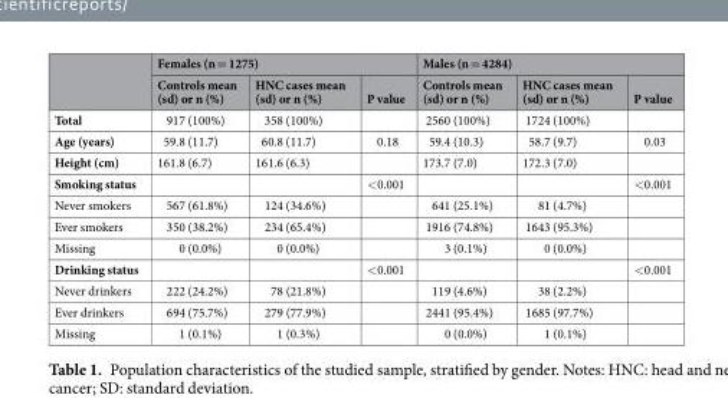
<table><thead><tr><td rowspan="2"></td><td colspan="3">Females (n = 1275)</td><td colspan="3">Males (n = 4284)</td></tr><tr><td>Controls mean (sd) or n (%)</td><td>HNC cases mean (sd) or n (%)</td><td>P value</td><td>Controls mean (sd) or n (%)</td><td>HNC cases mean (sd) or n (%)</td><td>P value</td></tr></thead><tbody><tr><td>Total</td><td>917 (100%)</td><td>358 (100%)</td><td></td><td>2560 (100%)</td><td>1724 (100%)</td><td></td></tr><tr><td>Age (years)</td><td>59.8 (11.7)</td><td>60.8 (11.7)</td><td>0.18</td><td>59.4 (10.3)</td><td>58.7 (9.7)</td><td>0.03</td></tr><tr><td>Height (cm)</td><td>161.8 (6.7)</td><td>161.6 (6.3)</td><td></td><td>173.7 (7.0)</td><td>172.3 (7.0)</td><td></td></tr><tr><td>Smoking status</td><td></td><td></td><td>&lt;0.001</td><td></td><td></td><td>&lt;0.001</td></tr><tr><td>Never smokers</td><td>567 (61.8%)</td><td>124 (34.6%)</td><td></td><td>641 (25.1%)</td><td>81 (4.7%)</td><td></td></tr><tr><td>Ever smokers</td><td>350 (38.2%)</td><td>234 (65.4%)</td><td></td><td>1916 (74.8%)</td><td>1643 (95.3%)</td><td></td></tr><tr><td>Missing</td><td>0 (0.0%)</td><td>0 (0.0%)</td><td></td><td>3 (0.1%)</td><td>0 (0.0%)</td><td></td></tr><tr><td>Drinking status</td><td></td><td></td><td>&lt;0.001</td><td></td><td></td><td>&lt;0.001</td></tr><tr><td>Never drinkers</td><td>222 (24.2%)</td><td>78 (21.8%)</td><td></td><td>119 (4.6%)</td><td>38 (2.2%)</td><td></td></tr><tr><td>Ever drinkers</td><td>694 (75.7%)</td><td>279 (77.9%)</td><td></td><td>2441 (95.4%)</td><td>1685 (97.7%)</td><td></td></tr><tr><td>Missing</td><td>1 (0.1%)</td><td>1 (0.3%)</td><td></td><td>0 (0.0%)</td><td>1 (0.1%)</td><td></td></tr></tbody></table>